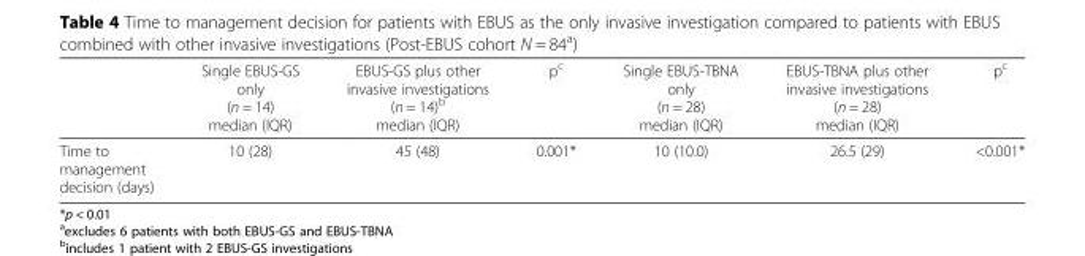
<table><thead><tr><td></td><td>Single EBUS-GS only (n = 14) median (IQR)</td><td>EBUS-GS plus other invasive investigations (n = 14)<sup>b</sup> median (IQR)</td><td>p<sup>c</sup></td><td>Single EBUS-TBNA only (n = 28) median (IQR)</td><td>EBUS-TBNA plus other invasive investigations (n = 28) median (IQR)</td><td>p<sup>c</sup></td></tr></thead><tbody><tr><td>Time to management decision (days)</td><td>10 (28)</td><td>45 (48)</td><td>0.001*</td><td>10 (10.0)</td><td>26.5 (29)</td><td>&lt;0.001*</td></tr></tbody></table>